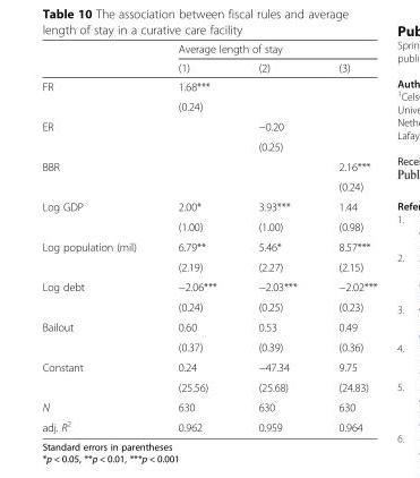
<table><thead><tr><td rowspan="2"></td><td colspan="3">Average length of stay</td></tr><tr><td>(1)</td><td>(2)</td><td>(3)</td></tr></thead><tbody><tr><td rowspan="2">FR</td><td>1.68***</td><td></td><td></td></tr><tr><td>(0.24)</td><td></td><td></td></tr><tr><td rowspan="2">ER</td><td></td><td>−0.20</td><td></td></tr><tr><td></td><td>(0.25)</td><td></td></tr><tr><td rowspan="2">BBR</td><td></td><td></td><td>2.16***</td></tr><tr><td></td><td></td><td>(0.24)</td></tr><tr><td rowspan="2">Log GDP</td><td>2.00*</td><td>3.93***</td><td>1.44</td></tr><tr><td>(1.00)</td><td>(1.00)</td><td>(0.98)</td></tr><tr><td rowspan="2">Log population (mil)</td><td>6.79**</td><td>5.46*</td><td>8.57***</td></tr><tr><td>(2.19)</td><td>(2.27)</td><td>(2.15)</td></tr><tr><td rowspan="2">Log debt</td><td>−2.06***</td><td>−2.03***</td><td>−2.02***</td></tr><tr><td>(0.24)</td><td>(0.25)</td><td>(0.23)</td></tr><tr><td rowspan="2">Bailout</td><td>0.60</td><td>0.53</td><td>0.49</td></tr><tr><td>(0.37)</td><td>(0.39)</td><td>(0.36)</td></tr><tr><td rowspan="2">Constant</td><td>0.24</td><td>−47.34</td><td>9.75</td></tr><tr><td>(25.56)</td><td>(25.68)</td><td>(24.83)</td></tr><tr><td>N</td><td>630</td><td>630</td><td>630</td></tr><tr><td>adj. R<sup>2</sup></td><td>0.962</td><td>0.959</td><td>0.964</td></tr></tbody></table>